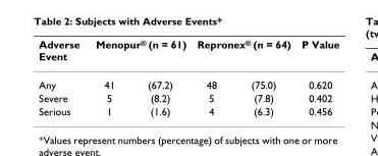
<table><thead><tr><td rowspan="2">Adverse Event Any</td><td colspan="2">Menopur<sup>®</sup> (n = 61)</td><td colspan="2">Repronex<sup>®</sup> (n = 64)</td><td rowspan="2">P Value 0.620</td></tr><tr><td>41</td><td>(67.2)</td><td>48</td><td>(75.0)</td></tr></thead><tbody><tr><td>Severe</td><td>5</td><td>(8.2)</td><td>5</td><td>(7.8)</td><td>0.402</td></tr><tr><td>Serious</td><td>1</td><td>(1.6)</td><td>4</td><td>(6.3)</td><td>0.456</td></tr></tbody></table>